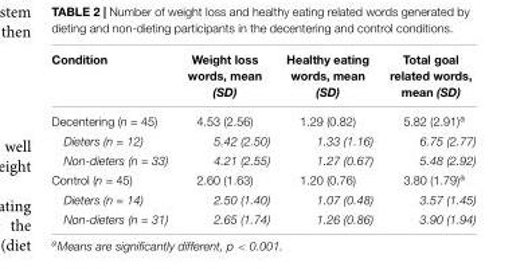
<table><thead><tr><td>Condition</td><td>Weight loss words, mean (SD)</td><td>Healthy eating words, mean (SD)</td><td>Total goal related words, mean (SD)</td></tr></thead><tbody><tr><td>Decentering (n = 45)</td><td>4.53 (2.56)</td><td>1.29 (0.82)</td><td>5.82 (2.91)<sup>a</sup></td></tr><tr><td>Dieters (n = 12)</td><td>5.42 (2.50)</td><td>1.33 (1.16)</td><td>6.75 (2.77)</td></tr><tr><td>Non-dieters (n = 33)</td><td>4.21 (2.55)</td><td>1.27 (0.67)</td><td>5.48 (2.92)</td></tr><tr><td>Control (n = 45)</td><td>2.60 (1.63)</td><td>1.20 (0.76)</td><td>3.80 (1.79)<sup>a</sup></td></tr><tr><td>Dieters (n = 14)</td><td>2.50 (1.40)</td><td>1.07 (0.48)</td><td>3.57 (1.45)</td></tr><tr><td>Non-dieters (n = 31)</td><td>2.65 (1.74)</td><td>1.26 (0.86)</td><td>3.90 (1.94)</td></tr></tbody></table>